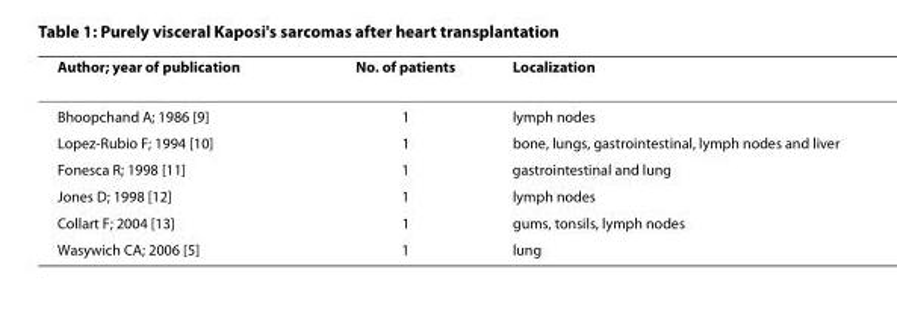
<table><thead><tr><td>Author; year of publication</td><td>No. of patients</td><td>Localization</td></tr></thead><tbody><tr><td>Bhoopchand A; 1986 [9]</td><td>1</td><td>lymph nodes</td></tr><tr><td>Lopez-Rubio F; 1994 [10]</td><td>1</td><td>bone, lungs, gastrointestinal, lymph nodes and liver</td></tr><tr><td>Fonesca R; 1998 [11]</td><td>1</td><td>gastrointestinal and lung</td></tr><tr><td>Jones D; 1998 [12]</td><td>1</td><td>lymph nodes</td></tr><tr><td>Collart F; 2004 [13]</td><td>1</td><td>gums, tonsils, lymph nodes</td></tr><tr><td>Wasywich CA; 2006 [5]</td><td>1</td><td>lung</td></tr></tbody></table>